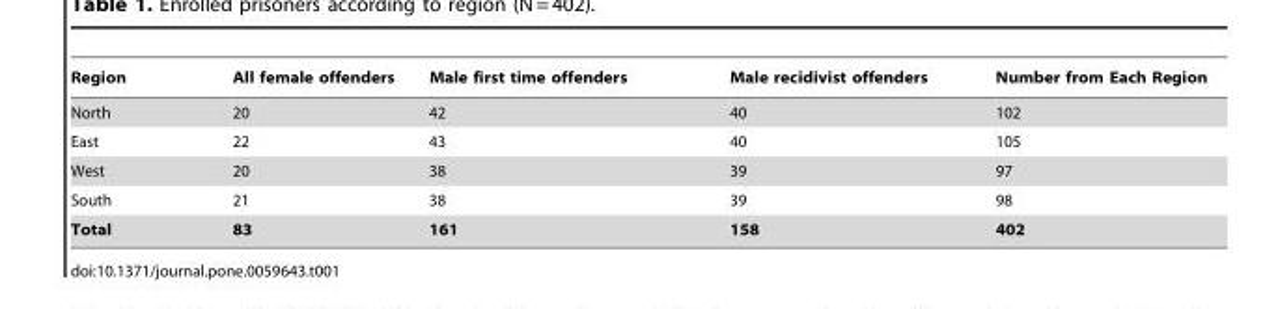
<table><thead><tr><td>Region</td><td>All female offenders</td><td>Male first time offenders</td><td>Male recidivist offenders</td><td>Number from Each Region</td></tr></thead><tbody><tr><td>North</td><td>20</td><td>42</td><td>40</td><td>102</td></tr><tr><td>East</td><td>22</td><td>43</td><td>40</td><td>105</td></tr><tr><td>West</td><td>20</td><td>38</td><td>39</td><td>97</td></tr><tr><td>South</td><td>21</td><td>38</td><td>39</td><td>98</td></tr><tr><td>Total</td><td>83</td><td>161</td><td>158</td><td>402</td></tr></tbody></table>